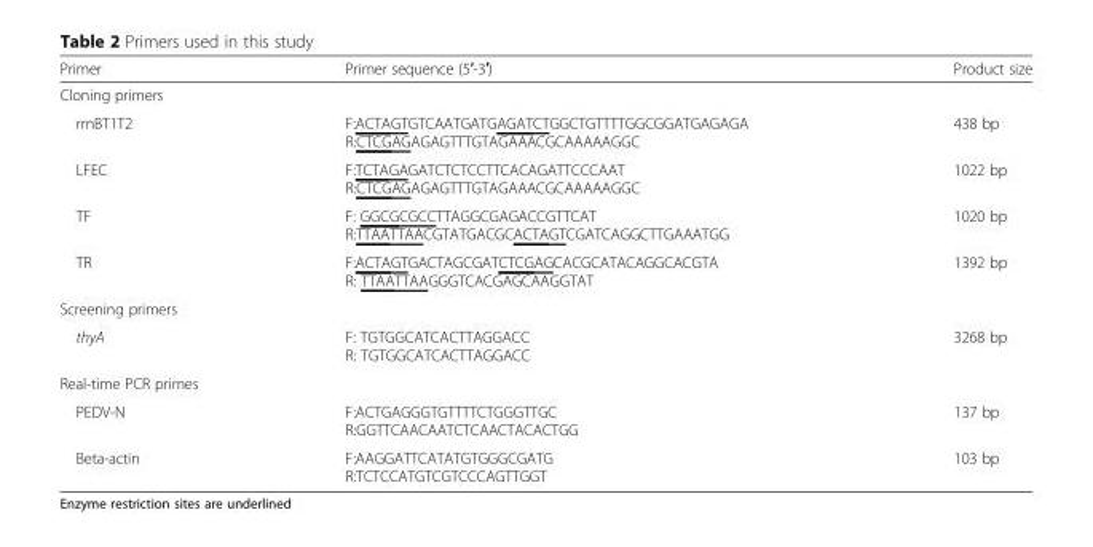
<table><thead><tr><td>Primer</td><td>Primer sequence (5′-3′)</td><td>Product size</td></tr></thead><tbody><tr><td colspan="3">Cloning primers</td></tr><tr><td>rrnBT1T2</td><td>F:ACTAGTGTCAATGATGAGATCTGGCTGTTTTGGCGGATGAGAGA R:CTCGAGAGAGTTTGTAGAAACGCAAAAAGGC</td><td>438 bp</td></tr><tr><td>LFEC</td><td>F:TCTAGAGATCTCTCCTTCACAGATTCCCAAT R:CTCGAGAGAGTTTGTAGAAACGCAAAAAGGC</td><td>1022 bp</td></tr><tr><td>TF</td><td>F: GGCGCGCCTTAGGCGAGACCGTTCAT R:TTAATTAACGTATGACGCACTAGTCGATCAGGCTTGAAATGG</td><td>1020 bp</td></tr><tr><td>TR</td><td>F:ACTAGTGACTAGCGATCTCGAGCACGCATACAGGCACGTA R: TTAATTAAGGGTCACGAGCAAGGTAT</td><td>1392 bp</td></tr><tr><td colspan="3">Screening primers</td></tr><tr><td>thyA</td><td>F: TGTGGCATCACTTAGGACC R: TGTGGCATCACTTAGGACC</td><td>3268 bp</td></tr><tr><td colspan="3">Real-time PCR primes</td></tr><tr><td>PEDV-N</td><td>F:ACTGAGGGTGTTTTCTGGGTTGC R:GGTTCAACAATCTCAACTACACTGG</td><td>137 bp</td></tr><tr><td>Beta-actin</td><td>F:AAGGATTCATATGTGGGCGATG R:TCTCCATGTCGTCCCAGTTGGT</td><td>103 bp</td></tr></tbody></table>